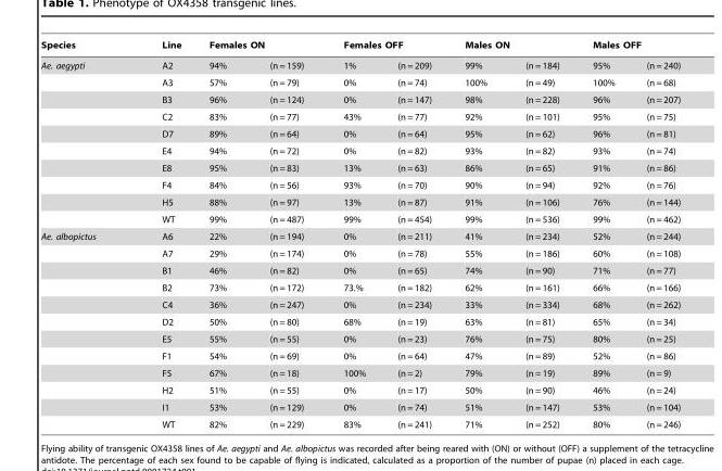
<table><thead><tr><td rowspan="2">Species Ae. aegypti</td><td rowspan="2">Line A2</td><td colspan="2">Females ON</td><td colspan="2">Females OFF</td><td colspan="2">Males ON</td><td colspan="2">Males OFF</td></tr><tr><td>94%</td><td>(n = 159)</td><td>1%</td><td>(n = 209)</td><td>99%</td><td>(n = 184)</td><td>95%</td><td>(n = 240)</td></tr></thead><tbody><tr><td></td><td>A3</td><td>57%</td><td>(n = 79)</td><td>0%</td><td>(n = 74)</td><td>100%</td><td>(n = 49)</td><td>100%</td><td>(n = 68)</td></tr><tr><td></td><td>B3</td><td>96%</td><td>(n = 124)</td><td>0%</td><td>(n = 147)</td><td>98%</td><td>(n = 228)</td><td>96%</td><td>(n = 207)</td></tr><tr><td></td><td>C2</td><td>83%</td><td>(n = 77)</td><td>43%</td><td>(n = 77)</td><td>92%</td><td>(n = 101)</td><td>95%</td><td>(n = 75)</td></tr><tr><td></td><td>D7</td><td>89%</td><td>(n = 64)</td><td>0%</td><td>(n = 64)</td><td>95%</td><td>(n = 62)</td><td>96%</td><td>(n = 81)</td></tr><tr><td></td><td>E4</td><td>94%</td><td>(n = 72)</td><td>0%</td><td>(n = 82)</td><td>93%</td><td>(n = 82)</td><td>93%</td><td>(n = 74)</td></tr><tr><td></td><td>E8</td><td>95%</td><td>(n = 83)</td><td>13%</td><td>(n = 63)</td><td>86%</td><td>(n = 65)</td><td>91%</td><td>(n = 86)</td></tr><tr><td></td><td>F4</td><td>84%</td><td>(n = 56)</td><td>93%</td><td>(n = 70)</td><td>90%</td><td>(n = 94)</td><td>92%</td><td>(n = 76)</td></tr><tr><td></td><td>H5</td><td>88%</td><td>(n = 97)</td><td>13%</td><td>(n = 87)</td><td>91%</td><td>(n = 106)</td><td>76%</td><td>(n = 144)</td></tr><tr><td></td><td>WT</td><td>99%</td><td>(n = 487)</td><td>99%</td><td>(n = 454)</td><td>99%</td><td>(n = 536)</td><td>99%</td><td>(n = 462)</td></tr><tr><td rowspan="12">Ae. albopictus</td><td>A6</td><td>22%</td><td>(n = 194)</td><td>0%</td><td>(n = 211)</td><td>41%</td><td>(n = 234)</td><td>52%</td><td>(n = 244)</td></tr><tr><td>A7</td><td>29%</td><td>(n = 174)</td><td>0%</td><td>(n = 78)</td><td>55%</td><td>(n = 186)</td><td>60%</td><td>(n = 108)</td></tr><tr><td>B1</td><td>46%</td><td>(n = 82)</td><td>0%</td><td>(n = 65)</td><td>74%</td><td>(n = 90)</td><td>71%</td><td>(n = 77)</td></tr><tr><td>B2</td><td>73%</td><td>(n = 172)</td><td>73.%</td><td>(n = 182)</td><td>62%</td><td>(n = 161)</td><td>66%</td><td>(n = 166)</td></tr><tr><td>C4</td><td>36%</td><td>(n = 247)</td><td>0%</td><td>(n = 234)</td><td>33%</td><td>(n = 334)</td><td>68%</td><td>(n = 262)</td></tr><tr><td>D2</td><td>50%</td><td>(n = 80)</td><td>68%</td><td>(n = 19)</td><td>63%</td><td>(n = 81)</td><td>65%</td><td>(n = 34)</td></tr><tr><td>E5</td><td>55%</td><td>(n = 55)</td><td>0%</td><td>(n = 23)</td><td>76%</td><td>(n = 75)</td><td>80%</td><td>(n = 25)</td></tr><tr><td>F1</td><td>54%</td><td>(n = 69)</td><td>0%</td><td>(n = 64)</td><td>47%</td><td>(n = 89)</td><td>52%</td><td>(n = 86)</td></tr><tr><td>F5</td><td>67%</td><td>(n = 18)</td><td>100%</td><td>(n = 2)</td><td>79%</td><td>(n = 19)</td><td>89%</td><td>(n = 9)</td></tr><tr><td>H2</td><td>51%</td><td>(n = 55)</td><td>0%</td><td>(n = 17)</td><td>50%</td><td>(n = 90)</td><td>46%</td><td>(n = 24)</td></tr><tr><td>I1</td><td>53%</td><td>(n = 129)</td><td>0%</td><td>(n = 74)</td><td>51%</td><td>(n = 147)</td><td>53%</td><td>(n = 104)</td></tr><tr><td>WT</td><td>82%</td><td>(n = 229)</td><td>83%</td><td>(n = 241)</td><td>71%</td><td>(n = 252)</td><td>80%</td><td>(n = 246)</td></tr></tbody></table>